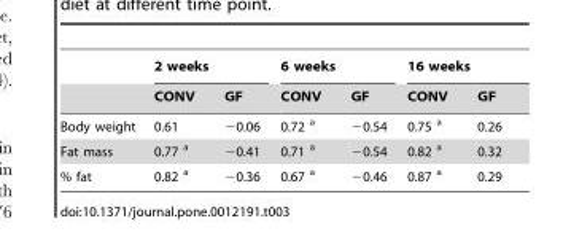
<table><thead><tr><td rowspan="2"></td><td colspan="2">2 weeks</td><td colspan="2">6 weeks</td><td colspan="2">16 weeks</td></tr><tr><td>CONV</td><td>GF</td><td>CONV</td><td>GF</td><td>CONV</td><td>GF</td></tr></thead><tbody><tr><td>Body weight</td><td>0.61</td><td>−0.06</td><td>0.72 <sup>a</sup></td><td>−0.54</td><td>0.75 <sup>a</sup></td><td>0.26</td></tr><tr><td>Fat mass</td><td>0.77 <sup>a</sup></td><td>−0.41</td><td>0.71 <sup>a</sup></td><td>−0.54</td><td>0.82 <sup>a</sup></td><td>0.32</td></tr><tr><td>% fat</td><td>0.82 <sup>a</sup></td><td>−0.36</td><td>0.67 <sup>a</sup></td><td>−0.46</td><td>0.87 <sup>a</sup></td><td>0.29</td></tr></tbody></table>